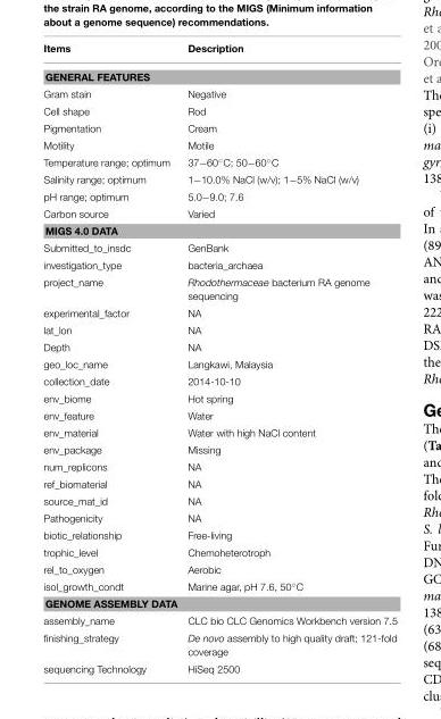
<table><thead><tr><td>Items</td><td>Description</td></tr></thead><tbody><tr><td colspan="2">GENERAL FEATURES</td></tr><tr><td>Gram stain</td><td>Negative</td></tr><tr><td>Cell shape</td><td>Rod</td></tr><tr><td>Pigmentation</td><td>Cream</td></tr><tr><td>Motility</td><td>Motile</td></tr><tr><td>Temperature range; optimum</td><td>37−60◦C; 50−60◦C</td></tr><tr><td>Salinity range; optimum</td><td>1−10.0% NaCl (w/v); 1−5% NaCl (w/v)</td></tr><tr><td>pH range; optimum</td><td>5.0−9.0; 7.6</td></tr><tr><td>Carbon source</td><td>Varied</td></tr><tr><td colspan="2">MIGS 4.0 DATA</td></tr><tr><td>Submitted_to_insdc</td><td>GenBank</td></tr><tr><td>investigation_type</td><td>bacteria_archaea</td></tr><tr><td>project_name</td><td>Rhodothermaceae bacterium RA genome sequencing</td></tr><tr><td>experimental_factor</td><td>NA</td></tr><tr><td>lat_lon</td><td>NA</td></tr><tr><td>Depth</td><td>NA</td></tr><tr><td>geo_loc_name</td><td>Langkawi, Malaysia</td></tr><tr><td>collection_date</td><td>2014-10-10</td></tr><tr><td>env_biome</td><td>Hot spring</td></tr><tr><td>env_feature</td><td>Water</td></tr><tr><td>env_material</td><td>Water with high NaCl content</td></tr><tr><td>env_package</td><td>Missing</td></tr><tr><td>num_replicons</td><td>NA</td></tr><tr><td>ref_biomaterial</td><td>NA</td></tr><tr><td>source_mat_id</td><td>NA</td></tr><tr><td>Pathogenicity</td><td>NA</td></tr><tr><td>biotic_relationship</td><td>Free-living</td></tr><tr><td>trophic_level</td><td>Chemoheterotroph</td></tr><tr><td>rel_to_oxygen</td><td>Aerobic</td></tr><tr><td>isol_growth_condt</td><td>Marine agar, pH 7.6, 50◦C</td></tr><tr><td colspan="2">GENOME ASSEMBLY DATA</td></tr><tr><td>assembly_name</td><td>CLC bio CLC Genomics Workbench version 7.5</td></tr><tr><td>finishing_strategy</td><td>De novo assembly to high quality draft; 121-fold coverage</td></tr><tr><td>sequencing Technology</td><td>HiSeq 2500</td></tr></tbody></table>